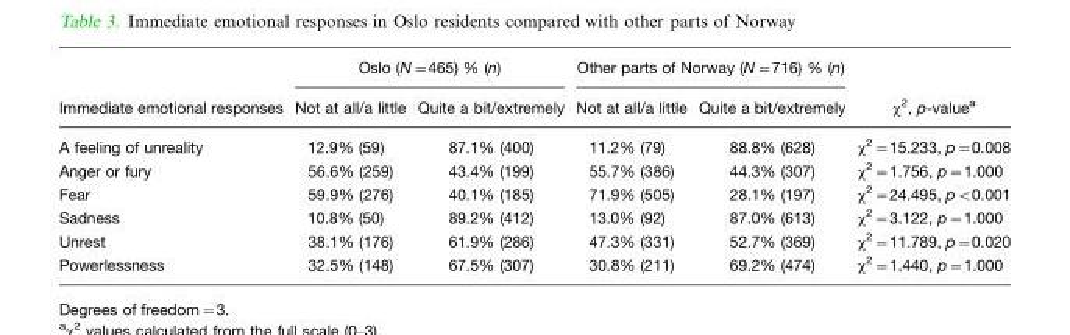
<table><thead><tr><td rowspan="2">Immediate emotional responses</td><td colspan="2">Oslo (N=465) % (n)</td><td colspan="2">Other parts of Norway (N=716) % (n)</td><td rowspan="2">χ<sup>2</sup>, p-value<sup>a</sup></td></tr><tr><td>Not at all/a little</td><td>Quite a bit/extremely</td><td>Not at all/a little</td><td>Quite a bit/extremely</td></tr></thead><tbody><tr><td>A feeling of unreality</td><td>12.9% (59)</td><td>87.1% (400)</td><td>11.2% (79)</td><td>88.8% (628)</td><td>χ<sup>2</sup>=15.233, p=0.008</td></tr><tr><td>Anger or fury</td><td>56.6% (259)</td><td>43.4% (199)</td><td>55.7% (386)</td><td>44.3% (307)</td><td>χ<sup>2</sup>=1.756, p=1.000</td></tr><tr><td>Fear</td><td>59.9% (276)</td><td>40.1% (185)</td><td>71.9% (505)</td><td>28.1% (197)</td><td>χ<sup>2</sup>=24.495, p&lt;0.001</td></tr><tr><td>Sadness</td><td>10.8% (50)</td><td>89.2% (412)</td><td>13.0% (92)</td><td>87.0% (613)</td><td>χ<sup>2</sup>=3.122, p=1.000</td></tr><tr><td>Unrest</td><td>38.1% (176)</td><td>61.9% (286)</td><td>47.3% (331)</td><td>52.7% (369)</td><td>χ<sup>2</sup>=11.789, p=0.020</td></tr><tr><td>Powerlessness</td><td>32.5% (148)</td><td>67.5% (307)</td><td>30.8% (211)</td><td>69.2% (474)</td><td>χ<sup>2</sup>=1.440, p=1.000</td></tr></tbody></table>